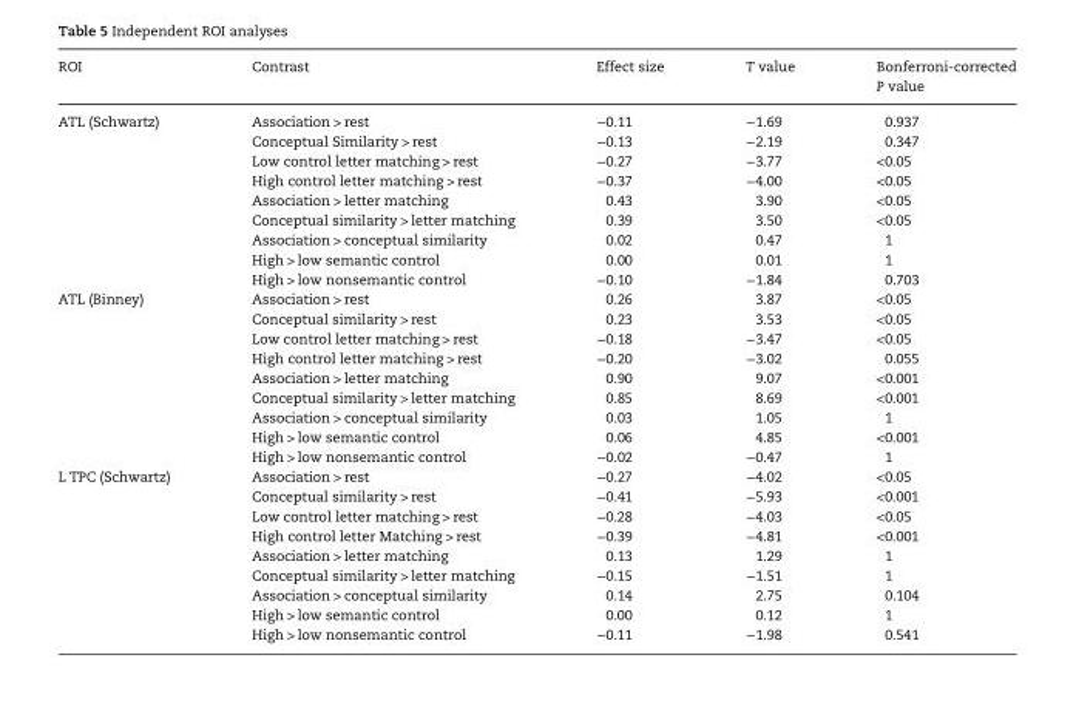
<table><thead><tr><td>ROI</td><td>Contrast</td><td>Effect size</td><td>T value</td><td>Bonferroni-corrected P value</td></tr></thead><tbody><tr><td rowspan="9">ATL (Schwartz)</td><td>Association &gt; rest</td><td>−0.11</td><td>−1.69</td><td>0.937</td></tr><tr><td>Conceptual Similarity &gt; rest</td><td>−0.13</td><td>−2.19</td><td>0.347</td></tr><tr><td>Low control letter matching &gt; rest</td><td>−0.27</td><td>−3.77</td><td>&lt;0.05</td></tr><tr><td>High control letter matching &gt; rest</td><td>−0.37</td><td>−4.00</td><td>&lt;0.05</td></tr><tr><td>Association &gt; letter matching</td><td>0.43</td><td>3.90</td><td>&lt;0.05</td></tr><tr><td>Conceptual similarity &gt; letter matching</td><td>0.39</td><td>3.50</td><td>&lt;0.05</td></tr><tr><td>Association &gt; conceptual similarity</td><td>0.02</td><td>0.47</td><td>1</td></tr><tr><td>High &gt; low semantic control</td><td>0.00</td><td>0.01</td><td>1</td></tr><tr><td>High &gt; low nonsemantic control</td><td>−0.10</td><td>−1.84</td><td>0.703</td></tr><tr><td rowspan="9">ATL (Binney)</td><td>Association &gt; rest</td><td>0.26</td><td>3.87</td><td>&lt;0.05</td></tr><tr><td>Conceptual similarity &gt; rest</td><td>0.23</td><td>3.53</td><td>&lt;0.05</td></tr><tr><td>Low control letter matching &gt; rest</td><td>−0.18</td><td>−3.47</td><td>&lt;0.05</td></tr><tr><td>High control letter matching &gt; rest</td><td>−0.20</td><td>−3.02</td><td>0.055</td></tr><tr><td>Association &gt; letter matching</td><td>0.90</td><td>9.07</td><td>&lt;0.001</td></tr><tr><td>Conceptual similarity &gt; letter matching</td><td>0.85</td><td>8.69</td><td>&lt;0.001</td></tr><tr><td>Association &gt; conceptual similarity</td><td>0.03</td><td>1.05</td><td>1</td></tr><tr><td>High &gt; low semantic control</td><td>0.06</td><td>4.85</td><td>&lt;0.001</td></tr><tr><td>High &gt; low nonsemantic control</td><td>−0.02</td><td>−0.47</td><td>1</td></tr><tr><td rowspan="9">L TPC (Schwartz)</td><td>Association &gt; rest</td><td>−0.27</td><td>−4.02</td><td>&lt;0.05</td></tr><tr><td>Conceptual similarity &gt; rest</td><td>−0.41</td><td>−5.93</td><td>&lt;0.001</td></tr><tr><td>Low control letter matching &gt; rest</td><td>−0.28</td><td>−4.03</td><td>&lt;0.05</td></tr><tr><td>High control letter Matching &gt; rest</td><td>−0.39</td><td>−4.81</td><td>&lt;0.001</td></tr><tr><td>Association &gt; letter matching</td><td>0.13</td><td>1.29</td><td>1</td></tr><tr><td>Conceptual similarity &gt; letter matching</td><td>−0.15</td><td>−1.51</td><td>1</td></tr><tr><td>Association &gt; conceptual similarity</td><td>0.14</td><td>2.75</td><td>0.104</td></tr><tr><td>High &gt; low semantic control</td><td>0.00</td><td>0.12</td><td>1</td></tr><tr><td>High &gt; low nonsemantic control</td><td>−0.11</td><td>−1.98</td><td>0.541</td></tr></tbody></table>